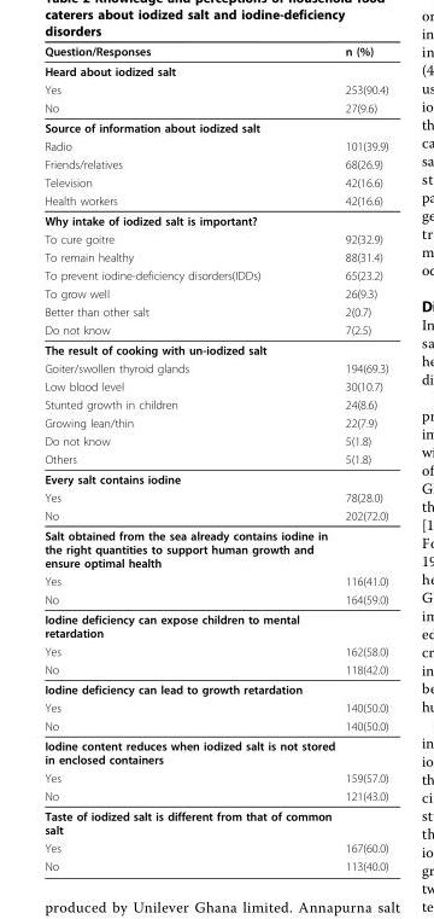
<table><thead><tr><td>Question/Responses</td><td>n (%)</td></tr></thead><tbody><tr><td colspan="2">Heard about iodized salt</td></tr><tr><td>Yes</td><td>253(90.4)</td></tr><tr><td>No</td><td>27(9.6)</td></tr><tr><td colspan="2">Source of information about iodized salt</td></tr><tr><td>Radio</td><td>101(39.9)</td></tr><tr><td>Friends/relatives</td><td>68(26.9)</td></tr><tr><td>Television</td><td>42(16.6)</td></tr><tr><td>Health workers</td><td>42(16.6)</td></tr><tr><td colspan="2">Why intake of iodized salt is important?</td></tr><tr><td>To cure goitre</td><td>92(32.9)</td></tr><tr><td>To remain healthy</td><td>88(31.4)</td></tr><tr><td>To prevent iodine-deficiency disorders(IDDs)</td><td>65(23.2)</td></tr><tr><td>To grow well</td><td>26(9.3)</td></tr><tr><td>Better than other salt</td><td>2(0.7)</td></tr><tr><td>Do not know</td><td>7(2.5)</td></tr><tr><td colspan="2">The result of cooking with un-iodized salt</td></tr><tr><td>Goiter/swollen thyroid glands</td><td>194(69.3)</td></tr><tr><td>Low blood level</td><td>30(10.7)</td></tr><tr><td>Stunted growth in children</td><td>24(8.6)</td></tr><tr><td>Growing lean/thin</td><td>22(7.9)</td></tr><tr><td>Do not know</td><td>5(1.8)</td></tr><tr><td>Others</td><td>5(1.8)</td></tr><tr><td colspan="2">Every salt contains iodine</td></tr><tr><td>Yes</td><td>78(28.0)</td></tr><tr><td>No</td><td>202(72.0)</td></tr><tr><td colspan="2">Salt obtained from the sea already contains iodine in the right quantities to support human growth and ensure optimal health</td></tr><tr><td>Yes</td><td>116(41.0)</td></tr><tr><td>No</td><td>164(59.0)</td></tr><tr><td colspan="2">Iodine deficiency can expose children to mental retardation</td></tr><tr><td>Yes</td><td>162(58.0)</td></tr><tr><td>No</td><td>118(42.0)</td></tr><tr><td colspan="2">Iodine deficiency can lead to growth retardation</td></tr><tr><td>Yes</td><td>140(50.0)</td></tr><tr><td>No</td><td>140(50.0)</td></tr><tr><td colspan="2">Iodine content reduces when iodized salt is not stored in enclosed containers</td></tr><tr><td>Yes</td><td>159(57.0)</td></tr><tr><td>No</td><td>121(43.0)</td></tr><tr><td colspan="2">Taste of iodized salt is different from that of common salt</td></tr><tr><td>Yes</td><td>167(60.0)</td></tr><tr><td>No</td><td>113(40.0)</td></tr></tbody></table>